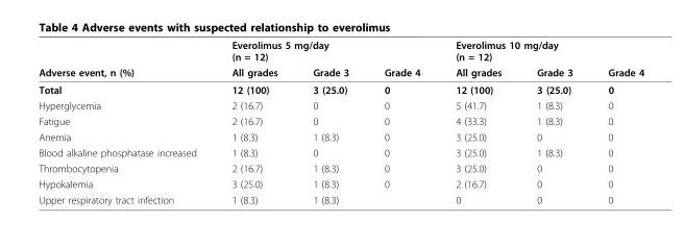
<table><thead><tr><td rowspan="2">Adverse event, n (%)</td><td colspan="3">Everolimus 5 mg/day (n = 12)</td><td colspan="3">Everolimus 10 mg/day (n = 12)</td></tr><tr><td>All grades</td><td>Grade 3</td><td>Grade 4</td><td>All grades</td><td>Grade 3</td><td>Grade 4</td></tr></thead><tbody><tr><td>Total</td><td>12 (100)</td><td>3 (25.0)</td><td>0</td><td>12 (100)</td><td>3 (25.0)</td><td>0</td></tr><tr><td>Hyperglycemia</td><td>2 (16.7)</td><td>0</td><td>0</td><td>5 (41.7)</td><td>1 (8.3)</td><td>0</td></tr><tr><td>Fatigue</td><td>2 (16.7)</td><td>0</td><td>0</td><td>4 (33.3)</td><td>1 (8.3)</td><td>0</td></tr><tr><td>Anemia</td><td>1 (8.3)</td><td>1 (8.3)</td><td>0</td><td>3 (25.0)</td><td>0</td><td>0</td></tr><tr><td>Blood alkaline phosphatase increased</td><td>1 (8.3)</td><td>0</td><td>0</td><td>3 (25.0)</td><td>1 (8.3)</td><td>0</td></tr><tr><td>Thrombocytopenia</td><td>2 (16.7)</td><td>1 (8.3)</td><td>0</td><td>3 (25.0)</td><td>0</td><td>0</td></tr><tr><td>Hypokalemia</td><td>3 (25.0)</td><td>1 (8.3)</td><td>0</td><td>2 (16.7)</td><td>0</td><td>0</td></tr><tr><td>Upper respiratory tract infection</td><td>1 (8.3)</td><td>1 (8.3)</td><td></td><td>0</td><td>0</td><td>0</td></tr></tbody></table>